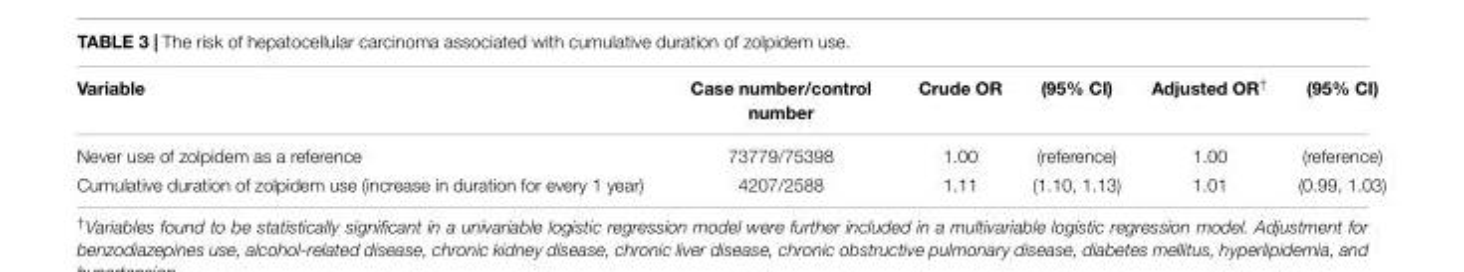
<table><thead><tr><td>Variable</td><td>Case number/control number</td><td>Crude OR</td><td>(95% CI)</td><td>Adjusted OR<sup>†</sup></td><td>(95% CI)</td></tr></thead><tbody><tr><td>Never use of zolpidem as a reference</td><td>73779/75398</td><td>1.00</td><td>(reference)</td><td>1.00</td><td>(reference)</td></tr><tr><td>Cumulative duration of zolpidem use (increase in duration for every 1 year)</td><td>4207/2588</td><td>1.11</td><td>(1.10, 1.13)</td><td>1.01</td><td>(0.99, 1.03)</td></tr></tbody></table>